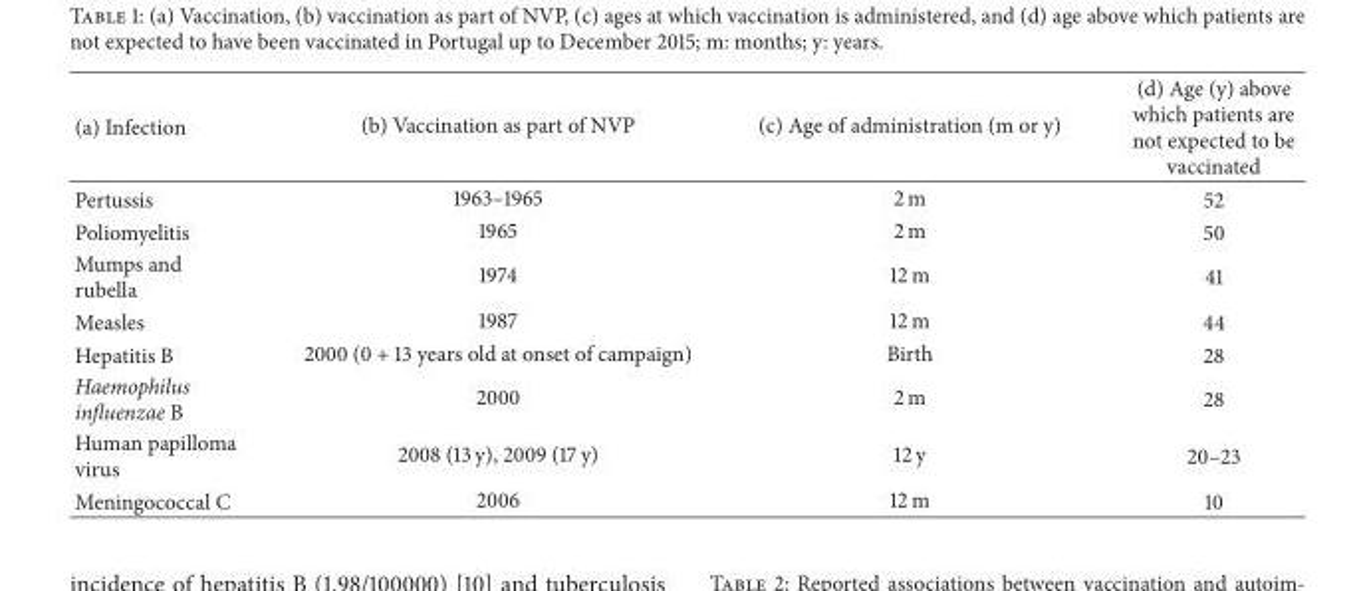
<table><thead><tr><td>(a) Infection</td><td>(b) Vaccination as part of NVP</td><td>(c) Age of administration (m or y)</td><td>(d) Age (y) above which patients are not expected to be vaccinated</td></tr></thead><tbody><tr><td>Pertussis</td><td>1963–1965</td><td>2 m</td><td>52</td></tr><tr><td>Poliomyelitis</td><td>1965</td><td>2 m</td><td>50</td></tr><tr><td>Mumps and rubella</td><td>1974</td><td>12 m</td><td>41</td></tr><tr><td>Measles</td><td>1987</td><td>12 m</td><td>44</td></tr><tr><td>Hepatitis B</td><td>2000 (0 + 13 years old at onset of campaign)</td><td>Birth</td><td>28</td></tr><tr><td>Haemophilus influenzae B</td><td>2000</td><td>2 m</td><td>28</td></tr><tr><td>Human papilloma virus</td><td>2008 (13 y), 2009 (17 y)</td><td>12 y</td><td>20–23</td></tr><tr><td>Meningococcal C</td><td>2006</td><td>12 m</td><td>10</td></tr></tbody></table>